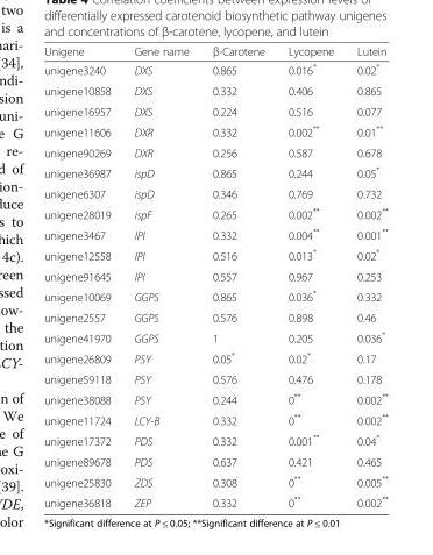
<table><thead><tr><td>Unigene</td><td>Gene name</td><td>β-Carotene</td><td>Lycopene</td><td>Lutein</td></tr></thead><tbody><tr><td>unigene3240</td><td>DXS</td><td>0.865</td><td>0.016*</td><td>0.02*</td></tr><tr><td>unigene10858</td><td>DXS</td><td>0.332</td><td>0.406</td><td>0.865</td></tr><tr><td>unigene16957</td><td>DXS</td><td>0.224</td><td>0.516</td><td>0.077</td></tr><tr><td>unigene11606</td><td>DXR</td><td>0.332</td><td>0.002**</td><td>0.01**</td></tr><tr><td>unigene90269</td><td>DXR</td><td>0.256</td><td>0.587</td><td>0.678</td></tr><tr><td>unigene36987</td><td>ispD</td><td>0.865</td><td>0.244</td><td>0.05*</td></tr><tr><td>unigene6307</td><td>ispD</td><td>0.346</td><td>0.769</td><td>0.732</td></tr><tr><td>unigene28019</td><td>ispF</td><td>0.265</td><td>0.002**</td><td>0.002**</td></tr><tr><td>unigene3467</td><td>IPI</td><td>0.332</td><td>0.004**</td><td>0.001**</td></tr><tr><td>unigene12558</td><td>IPI</td><td>0.516</td><td>0.013*</td><td>0.02*</td></tr><tr><td>unigene91645</td><td>IPI</td><td>0.557</td><td>0.967</td><td>0.253</td></tr><tr><td>unigene10069</td><td>GGPS</td><td>0.865</td><td>0.036*</td><td>0.332</td></tr><tr><td>unigene2557</td><td>GGPS</td><td>0.576</td><td>0.898</td><td>0.46</td></tr><tr><td>unigene41970</td><td>GGPS</td><td>1</td><td>0.205</td><td>0.036*</td></tr><tr><td>unigene26809</td><td>PSY</td><td>0.05*</td><td>0.02*</td><td>0.17</td></tr><tr><td>unigene59118</td><td>PSY</td><td>0.576</td><td>0.476</td><td>0.178</td></tr><tr><td>unigene38088</td><td>PSY</td><td>0.244</td><td>0**</td><td>0.002**</td></tr><tr><td>unigene11724</td><td>LCY-B</td><td>0.332</td><td>0**</td><td>0.002**</td></tr><tr><td>unigene17372</td><td>PDS</td><td>0.332</td><td>0.001**</td><td>0.04*</td></tr><tr><td>unigene89678</td><td>PDS</td><td>0.637</td><td>0.421</td><td>0.465</td></tr><tr><td>unigene25830</td><td>ZDS</td><td>0.308</td><td>0**</td><td>0.005**</td></tr><tr><td>unigene36818</td><td>ZEP</td><td>0.332</td><td>0**</td><td>0.002**</td></tr></tbody></table>